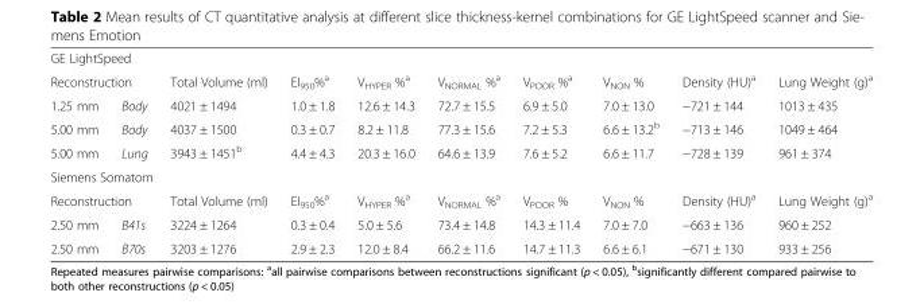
<table><tbody><tr><td colspan="10">GE LightSpeed</td></tr><tr><td colspan="2">Reconstruction</td><td>Total Volume (ml)</td><td>EI<sub>950</sub>%<sup>a</sup></td><td>V<sub>HYPER</sub> %<sup>a</sup></td><td>V<sub>NORMAL</sub> %<sup>a</sup></td><td>V<sub>POOR</sub> %<sup>a</sup></td><td>V<sub>NON</sub> %</td><td>Density (HU)<sup>a</sup></td><td>Lung Weight (g)<sup>a</sup></td></tr><tr><td>1.25 mm</td><td>Body</td><td>4021 ± 1494</td><td>1.0 ± 1.8</td><td>12.6 ± 14.3</td><td>72.7 ± 15.5</td><td>6.9 ± 5.0</td><td>7.0 ± 13.0</td><td>−721 ± 144</td><td>1013 ± 435</td></tr><tr><td>5.00 mm</td><td>Body</td><td>4037 ± 1500</td><td>0.3 ± 0.7</td><td>8.2 ± 11.8</td><td>77.3 ± 15.6</td><td>7.2 ± 5.3</td><td>6.6 ± 13.2<sup>b</sup></td><td>−713 ± 146</td><td>1049 ± 464</td></tr><tr><td>5.00 mm</td><td>Lung</td><td>3943 ± 1451<sup>b</sup></td><td>4.4 ± 4.3</td><td>20.3 ± 16.0</td><td>64.6 ± 13.9</td><td>7.6 ± 5.2</td><td>6.6 ± 11.7</td><td>−728 ± 139</td><td>961 ± 374</td></tr><tr><td colspan="10">Siemens Somatom</td></tr><tr><td colspan="2">Reconstruction</td><td>Total Volume (ml)</td><td>EI<sub>950</sub>%<sup>a</sup></td><td>V<sub>HYPER</sub> %<sup>a</sup></td><td>V<sub>NORMAL</sub> %<sup>a</sup></td><td>V<sub>POOR</sub> %</td><td>V<sub>NON</sub> %</td><td>Density (HU)<sup>a</sup></td><td>Lung Weight (g)<sup>a</sup></td></tr><tr><td>2.50 mm</td><td>B41s</td><td>3224 ± 1264</td><td>0.3 ± 0.4</td><td>5.0 ± 5.6</td><td>73.4 ± 14.8</td><td>14.3 ± 11.4</td><td>7.0 ± 7.0</td><td>−663 ± 136</td><td>960 ± 252</td></tr><tr><td>2.50 mm</td><td>B70s</td><td>3203 ± 1276</td><td>2.9 ± 2.3</td><td>12.0 ± 8.4</td><td>66.2 ± 11.6</td><td>14.7 ± 11.3</td><td>6.6 ± 6.1</td><td>−671 ± 130</td><td>933 ± 256</td></tr></tbody></table>